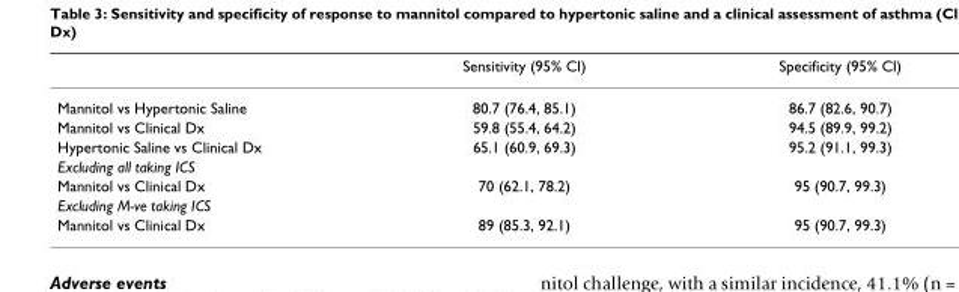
<table><thead><tr><td></td><td>Sensitivity (95% CI)</td><td>Specificity (95% CI)</td></tr></thead><tbody><tr><td>Mannitol vs Hypertonic Saline</td><td>80.7 (76.4, 85.1)</td><td>86.7 (82.6, 90.7)</td></tr><tr><td>Mannitol vs Clinical Dx</td><td>59.8 (55.4, 64.2)</td><td>94.5 (89.9, 99.2)</td></tr><tr><td>Hypertonic Saline vs Clinical Dx</td><td>65.1 (60.9, 69.3)</td><td>95.2 (91.1, 99.3)</td></tr><tr><td colspan="3">Excluding all taking ICS</td></tr><tr><td>Mannitol vs Clinical Dx</td><td>70 (62.1, 78.2)</td><td>95 (90.7, 99.3)</td></tr><tr><td colspan="3">Excluding M-ve taking ICS</td></tr><tr><td>Mannitol vs Clinical Dx</td><td>89 (85.3, 92.1)</td><td>95 (90.7, 99.3)</td></tr></tbody></table>